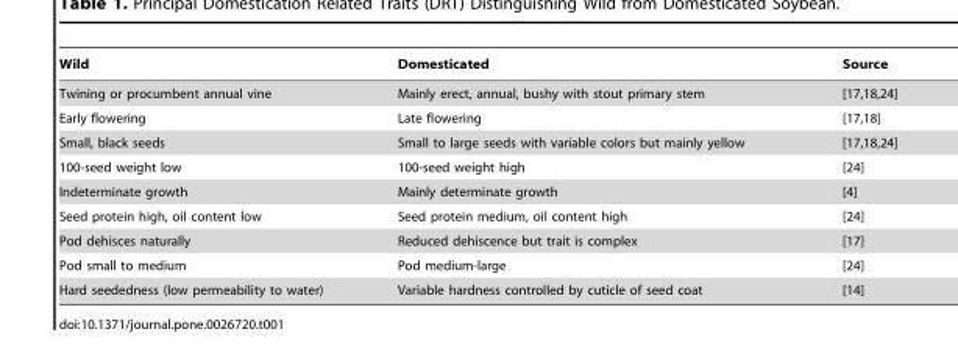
<table><thead><tr><td>Wild</td><td>Domesticated</td><td>Source</td></tr></thead><tbody><tr><td>Twining or procumbent annual vine</td><td>Mainly erect, annual, bushy with stout primary stem</td><td>[17,18,24]</td></tr><tr><td>Early flowering</td><td>Late flowering</td><td>[17,18]</td></tr><tr><td>Small, black seeds</td><td>Small to large seeds with variable colors but mainly yellow</td><td>[17,18,24]</td></tr><tr><td>100-seed weight low</td><td>100-seed weight high</td><td>[24]</td></tr><tr><td>Indeterminate growth</td><td>Mainly determinate growth</td><td>[4]</td></tr><tr><td>Seed protein high, oil content low</td><td>Seed protein medium, oil content high</td><td>[24]</td></tr><tr><td>Pod dehisces naturally</td><td>Reduced dehiscence but trait is complex</td><td>[17]</td></tr><tr><td>Pod small to medium</td><td>Pod medium-large</td><td>[24]</td></tr><tr><td>Hard seededness (low permeability to water)</td><td>Variable hardness controlled by cuticle of seed coat</td><td>[14]</td></tr></tbody></table>